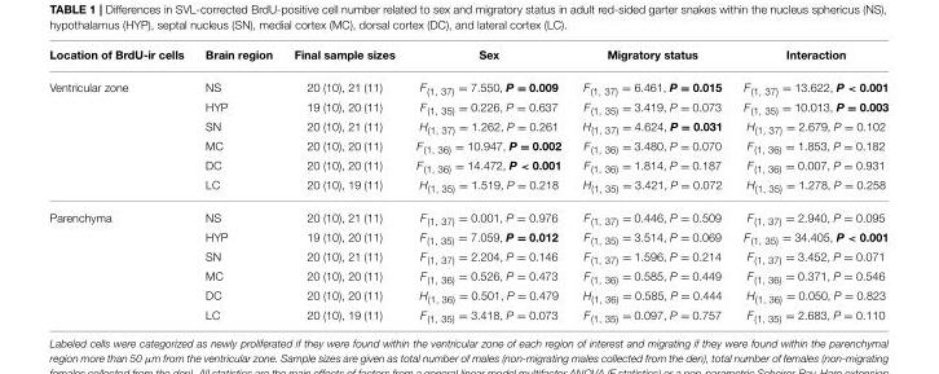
<table><thead><tr><td>Location of BrdU-ir cells</td><td>Brain region</td><td>Final sample sizes</td><td>Sex</td><td>Migratory status</td><td>Interaction</td></tr></thead><tbody><tr><td rowspan="6">Ventricular zone</td><td>NS</td><td>20 (10), 21 (11)</td><td>F<sub>(1, 37)</sub> = 7.550, P = 0.009</td><td>F<sub>(1, 37)</sub> = 6.461, P = 0.015</td><td>F<sub>(1, 37)</sub> = 13.622, P &lt; 0.001</td></tr><tr><td>HYP</td><td>19 (10), 20 (11)</td><td>F<sub>(1, 35)</sub> = 0.226, P = 0.637</td><td>F<sub>(1, 35)</sub> = 3.419, P = 0.073</td><td>F<sub>(1, 35)</sub> = 10.013, P = 0.003</td></tr><tr><td>SN</td><td>20 (10), 21 (11)</td><td>H<sub>(1, 37)</sub> = 1.262, P = 0.261</td><td>H<sub>(1, 37)</sub> = 4.624, P = 0.031</td><td>H<sub>(1, 37)</sub> = 2.679, P = 0.102</td></tr><tr><td>MC</td><td>20 (10), 20 (11)</td><td>F<sub>(1, 36)</sub> = 10.947, P = 0.002</td><td>F<sub>(1, 36)</sub> = 3.480, P = 0.070</td><td>F<sub>(1, 36)</sub> = 1.853, P = 0.182</td></tr><tr><td>DC</td><td>20 (10), 20 (11)</td><td>F<sub>(1, 36)</sub> = 14.472, P &lt; 0.001</td><td>F<sub>(1, 36)</sub> = 1.814, P = 0.187</td><td>F<sub>(1, 36)</sub> = 0.007, P = 0.931</td></tr><tr><td>LC</td><td>20 (10), 19 (11)</td><td>H<sub>(1, 35)</sub> = 1.519, P = 0.218</td><td>H<sub>(1, 35)</sub> = 3.421, P = 0.072</td><td>H<sub>(1, 35)</sub> = 1.278, P = 0.258</td></tr><tr><td rowspan="6">Parenchyma</td><td>NS</td><td>20 (10), 21 (11)</td><td>F<sub>(1, 37)</sub> = 0.001, P = 0.976</td><td>F<sub>(1, 37)</sub> = 0.446, P = 0.509</td><td>F<sub>(1, 37)</sub> = 2.940, P = 0.095</td></tr><tr><td>HYP</td><td>19 (10), 20 (11)</td><td>F<sub>(1, 35)</sub> = 7.059, P = 0.012</td><td>F<sub>(1, 35)</sub> = 3.514, P = 0.069</td><td>F<sub>(1, 35)</sub> = 34.405, P &lt; 0.001</td></tr><tr><td>SN</td><td>20 (10), 21 (11)</td><td>F<sub>(1, 37)</sub> = 2.204, P = 0.146</td><td>F<sub>(1, 37)</sub> = 1.596, P = 0.214</td><td>F<sub>(1, 37)</sub> = 3.452, P = 0.071</td></tr><tr><td>MC</td><td>20 (10), 20 (11)</td><td>F<sub>(1, 36)</sub> = 0.526, P = 0.473</td><td>F<sub>(1, 36)</sub> = 0.585, P = 0.449</td><td>F<sub>(1, 36)</sub> = 0.371, P = 0.546</td></tr><tr><td>DC</td><td>20 (10), 20 (11)</td><td>H<sub>(1, 36)</sub> = 0.501, P = 0.479</td><td>H<sub>(1, 36)</sub> = 0.585, P = 0.444</td><td>H<sub>(1, 36)</sub> = 0.050, P = 0.823</td></tr><tr><td>LC</td><td>20 (10), 19 (11)</td><td>F<sub>(1, 35)</sub> = 3.418, P = 0.073</td><td>F<sub>(1, 35)</sub> = 0.097, P = 0.757</td><td>F<sub>(1, 35)</sub> = 2.683, P = 0.110</td></tr></tbody></table>